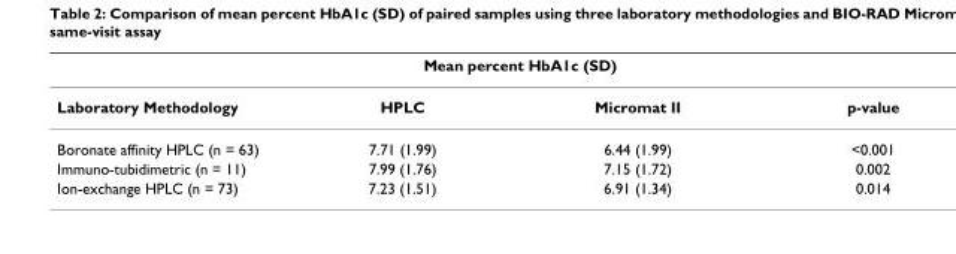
<table><thead><tr><td rowspan="2">Laboratory Methodology</td><td colspan="2">Mean percent HbA1c (SD)</td><td rowspan="2">p-value</td></tr><tr><td>HPLC</td><td>Micromat II</td></tr></thead><tbody><tr><td>Boronate affinity HPLC (n = 63)</td><td>7.71 (1.99)</td><td>6.44 (1.99)</td><td>&lt;0.001</td></tr><tr><td>Immuno-tubidimetric (n = 11)</td><td>7.99 (1.76)</td><td>7.15 (1.72)</td><td>0.002</td></tr><tr><td>Ion-exchange HPLC (n = 73)</td><td>7.23 (1.51)</td><td>6.91 (1.34)</td><td>0.014</td></tr></tbody></table>